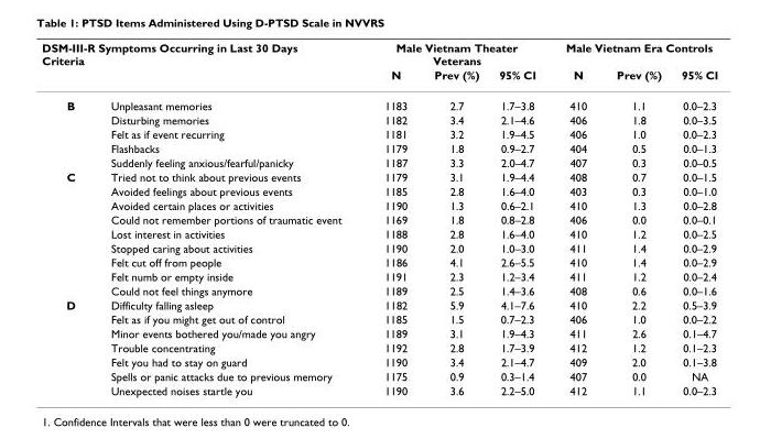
<table><thead><tr><td colspan="2">DSM-III-R Symptoms Occurring in Last 30 Days Criteria</td><td colspan="3">Male Vietnam Theater Veterans</td><td colspan="3">Male Vietnam Era Controls</td></tr><tr><td></td><td></td><td>N</td><td>Prev (%)</td><td>95% CI</td><td>N</td><td>Prev (%)</td><td>95% CI</td></tr></thead><tbody><tr><td rowspan="5">B</td><td>Unpleasant memories</td><td>1183</td><td>2.7</td><td>1.7–3.8</td><td>410</td><td>1.1</td><td>0.0–2.3</td></tr><tr><td>Disturbing memories</td><td>1182</td><td>3.4</td><td>2.1–4.6</td><td>406</td><td>1.8</td><td>0.0–3.5</td></tr><tr><td>Felt as if event recurring</td><td>1181</td><td>3.2</td><td>1.9–4.5</td><td>406</td><td>1.0</td><td>0.0–2.3</td></tr><tr><td>Flashbacks</td><td>1179</td><td>1.8</td><td>0.9–2.7</td><td>404</td><td>0.5</td><td>0.0–1.3</td></tr><tr><td>Suddenly feeling anxious/fearful/panicky</td><td>1187</td><td>3.3</td><td>2.0–4.7</td><td>407</td><td>0.3</td><td>0.0–0.5</td></tr><tr><td rowspan="9">C</td><td>Tried not to think about previous events</td><td>1179</td><td>3.1</td><td>1.9–4.4</td><td>408</td><td>0.7</td><td>0.0–1.5</td></tr><tr><td>Avoided feelings about previous events</td><td>1185</td><td>2.8</td><td>1.6–4.0</td><td>403</td><td>0.3</td><td>0.0–1.0</td></tr><tr><td>Avoided certain places or activities</td><td>1190</td><td>1.3</td><td>0.6–2.1</td><td>410</td><td>1.3</td><td>0.0–2.8</td></tr><tr><td>Could not remember portions of traumatic event</td><td>1169</td><td>1.8</td><td>0.8–2.8</td><td>406</td><td>0.0</td><td>0.0–0.1</td></tr><tr><td>Lost interest in activities</td><td>1188</td><td>2.8</td><td>1.6–4.0</td><td>410</td><td>1.2</td><td>0.0–2.5</td></tr><tr><td>Stopped caring about activities</td><td>1190</td><td>2.0</td><td>1.0–3.0</td><td>411</td><td>1.4</td><td>0.0–2.9</td></tr><tr><td>Felt cut off from people</td><td>1186</td><td>4.1</td><td>2.6–5.5</td><td>410</td><td>1.4</td><td>0.0–2.9</td></tr><tr><td>Felt numb or empty inside</td><td>1191</td><td>2.3</td><td>1.2–3.4</td><td>411</td><td>1.2</td><td>0.0–2.4</td></tr><tr><td>Could not feel things anymore</td><td>1189</td><td>2.5</td><td>1.4–3.6</td><td>408</td><td>0.6</td><td>0.0–1.6</td></tr><tr><td rowspan="7">D</td><td>Difficulty falling asleep</td><td>1182</td><td>5.9</td><td>4.1–7.6</td><td>410</td><td>2.2</td><td>0.5–3.9</td></tr><tr><td>Felt as if you might get out of control</td><td>1185</td><td>1.5</td><td>0.7–2.3</td><td>406</td><td>1.0</td><td>0.0–2.2</td></tr><tr><td>Minor events bothered you/made you angry</td><td>1189</td><td>3.1</td><td>1.9–4.3</td><td>411</td><td>2.6</td><td>0.1–4.7</td></tr><tr><td>Trouble concentrating</td><td>1192</td><td>2.8</td><td>1.7–3.9</td><td>412</td><td>1.2</td><td>0.1–2.3</td></tr><tr><td>Felt you had to stay on guard</td><td>1190</td><td>3.4</td><td>2.1–4.7</td><td>409</td><td>2.0</td><td>0.1–3.8</td></tr><tr><td>Spells or panic attacks due to previous memory</td><td>1175</td><td>0.9</td><td>0.3–1.4</td><td>407</td><td>0.0</td><td>NA</td></tr><tr><td>Unexpected noises startle you</td><td>1190</td><td>3.6</td><td>2.2–5.0</td><td>412</td><td>1.1</td><td>0.0–2.3</td></tr></tbody></table>